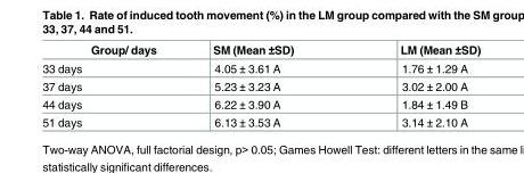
<table><thead><tr><td>Group/ days</td><td>SM (Mean ±SD)</td><td>LM (Mean ±SD)</td></tr></thead><tbody><tr><td>33 days</td><td>4.05 ± 3.61 A</td><td>1.76 ± 1.29 A</td></tr><tr><td>37 days</td><td>5.23 ± 3.23 A</td><td>3.02 ± 2.00 A</td></tr><tr><td>44 days</td><td>6.22 ± 3.90 A</td><td>1.84 ± 1.49 B</td></tr><tr><td>51 days</td><td>6.13 ± 3.53 A</td><td>3.14 ± 2.10 A</td></tr></tbody></table>